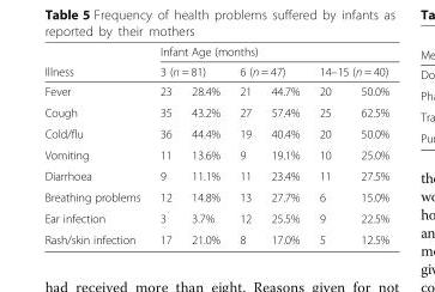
<table><thead><tr><td rowspan="3">Illness Fever</td><td colspan="6">Infant Age (months)</td></tr><tr><td colspan="2">3 (n = 81)</td><td colspan="2">6 (n = 47)</td><td colspan="2">14–15 (n = 40)</td></tr><tr><td>23</td><td>28.4%</td><td>21</td><td>44.7%</td><td>20</td><td>50.0%</td></tr></thead><tbody><tr><td>Cough</td><td>35</td><td>43.2%</td><td>27</td><td>57.4%</td><td>25</td><td>62.5%</td></tr><tr><td>Cold/flu</td><td>36</td><td>44.4%</td><td>19</td><td>40.4%</td><td>20</td><td>50.0%</td></tr><tr><td>Vomiting</td><td>11</td><td>13.6%</td><td>9</td><td>19.1%</td><td>10</td><td>25.0%</td></tr><tr><td>Diarrhoea</td><td>9</td><td>11.1%</td><td>11</td><td>23.4%</td><td>11</td><td>27.5%</td></tr><tr><td>Breathing problems</td><td>12</td><td>14.8%</td><td>13</td><td>27.7%</td><td>6</td><td>15.0%</td></tr><tr><td>Ear infection</td><td>3</td><td>3.7%</td><td>12</td><td>25.5%</td><td>9</td><td>22.5%</td></tr><tr><td>Rash/skin infection</td><td>17</td><td>21.0%</td><td>8</td><td>17.0%</td><td>5</td><td>12.5%</td></tr></tbody></table>